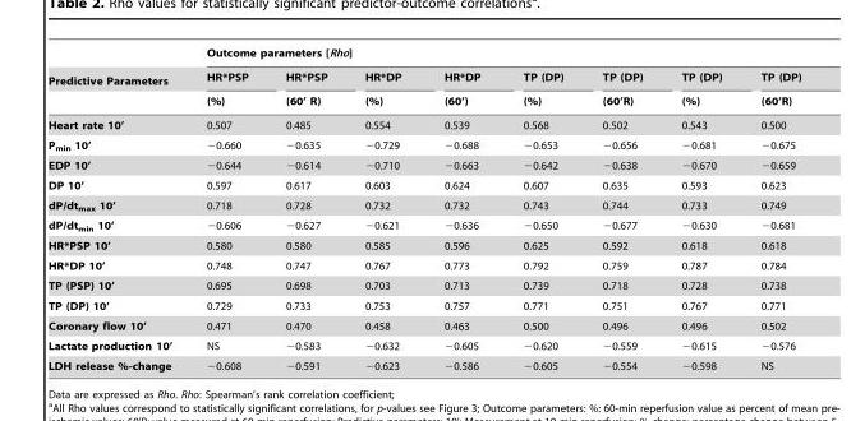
<table><thead><tr><td rowspan="3">Predictive Parameters</td><td colspan="8">Outcome parameters [Rho]</td></tr><tr><td rowspan="2">HR*PSP (%)</td><td rowspan="2">HR*PSP (60’ R)</td><td rowspan="2">HR*DP (%)</td><td rowspan="2">HR*DP (60’)</td><td rowspan="2">TP (DP) (%)</td><td rowspan="2">TP (DP) (60’R)</td><td rowspan="2">TP (DP) (%)</td><td rowspan="2">TP (DP) (60’R)</td></tr><tr></tr></thead><tbody><tr><td>Heart rate 10’</td><td>0.507</td><td>0.485</td><td>0.554</td><td>0.539</td><td>0.568</td><td>0.502</td><td>0.543</td><td>0.500</td></tr><tr><td>P<sub>min</sub> 10’</td><td>−0.660</td><td>−0.635</td><td>−0.729</td><td>−0.688</td><td>−0.653</td><td>−0.656</td><td>−0.681</td><td>−0.675</td></tr><tr><td>EDP 10’</td><td>−0.644</td><td>−0.614</td><td>−0.710</td><td>−0.663</td><td>−0.642</td><td>−0.638</td><td>−0.670</td><td>−0.659</td></tr><tr><td>DP 10’</td><td>0.597</td><td>0.617</td><td>0.603</td><td>0.624</td><td>0.607</td><td>0.635</td><td>0.593</td><td>0.623</td></tr><tr><td>dP/dt<sub>max</sub> 10’</td><td>0.718</td><td>0.728</td><td>0.732</td><td>0.732</td><td>0.743</td><td>0.744</td><td>0.733</td><td>0.749</td></tr><tr><td>dP/dt<sub>min</sub> 10’</td><td>−0.606</td><td>−0.627</td><td>−0.621</td><td>−0.636</td><td>−0.650</td><td>−0.677</td><td>−0.630</td><td>−0.681</td></tr><tr><td>HR*PSP 10’</td><td>0.580</td><td>0.580</td><td>0.585</td><td>0.596</td><td>0.625</td><td>0.592</td><td>0.618</td><td>0.618</td></tr><tr><td>HR*DP 10’</td><td>0.748</td><td>0.747</td><td>0.767</td><td>0.773</td><td>0.792</td><td>0.759</td><td>0.787</td><td>0.784</td></tr><tr><td>TP (PSP) 10’</td><td>0.695</td><td>0.698</td><td>0.703</td><td>0.713</td><td>0.739</td><td>0.718</td><td>0.728</td><td>0.738</td></tr><tr><td>TP (DP) 10’</td><td>0.729</td><td>0.733</td><td>0.753</td><td>0.757</td><td>0.771</td><td>0.751</td><td>0.767</td><td>0.771</td></tr><tr><td>Coronary flow 10’</td><td>0.471</td><td>0.470</td><td>0.458</td><td>0.463</td><td>0.500</td><td>0.496</td><td>0.496</td><td>0.502</td></tr><tr><td>Lactate production 10’</td><td>NS</td><td>−0.583</td><td>−0.632</td><td>−0.605</td><td>−0.620</td><td>−0.559</td><td>−0.615</td><td>−0.576</td></tr><tr><td>LDH release %-change</td><td>−0.608</td><td>−0.591</td><td>−0.623</td><td>−0.586</td><td>−0.605</td><td>−0.554</td><td>−0.598</td><td>NS</td></tr></tbody></table>